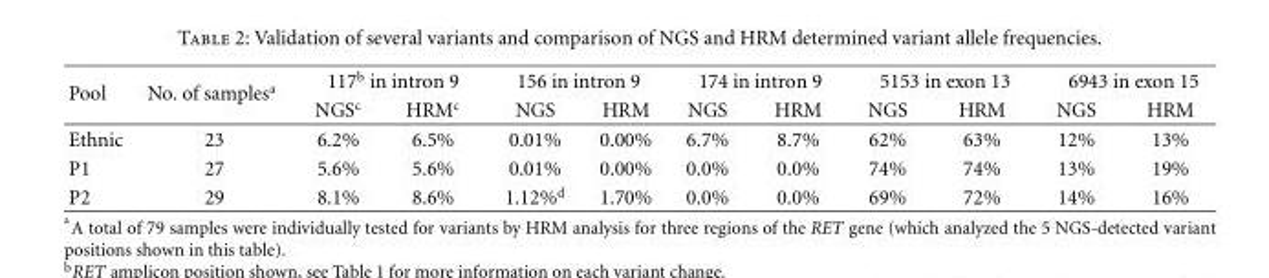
<table><thead><tr><td rowspan="2">Pool</td><td rowspan="2">No. of samples<sup>a</sup></td><td colspan="2">117<sup>b</sup> in intron 9</td><td colspan="2">156 in intron 9</td><td colspan="2">174 in intron 9</td><td colspan="2">5153 in exon 13</td><td colspan="2">6943 in exon 15</td></tr><tr><td>NGS<sup>c</sup></td><td>HRM<sup>c</sup></td><td>NGS</td><td>HRM</td><td>NGS</td><td>HRM</td><td>NGS</td><td>HRM</td><td>NGS</td><td>HRM</td></tr></thead><tbody><tr><td>Ethnic</td><td>23</td><td>6.2%</td><td>6.5%</td><td>0.01%</td><td>0.00%</td><td>6.7%</td><td>8.7%</td><td>62%</td><td>63%</td><td>12%</td><td>13%</td></tr><tr><td>P1</td><td>27</td><td>5.6%</td><td>5.6%</td><td>0.01%</td><td>0.00%</td><td>0.0%</td><td>0.0%</td><td>74%</td><td>74%</td><td>13%</td><td>19%</td></tr><tr><td>P2</td><td>29</td><td>8.1%</td><td>8.6%</td><td>1.12%<sup>d</sup></td><td>1.70%</td><td>0.0%</td><td>0.0%</td><td>69%</td><td>72%</td><td>14%</td><td>16%</td></tr></tbody></table>